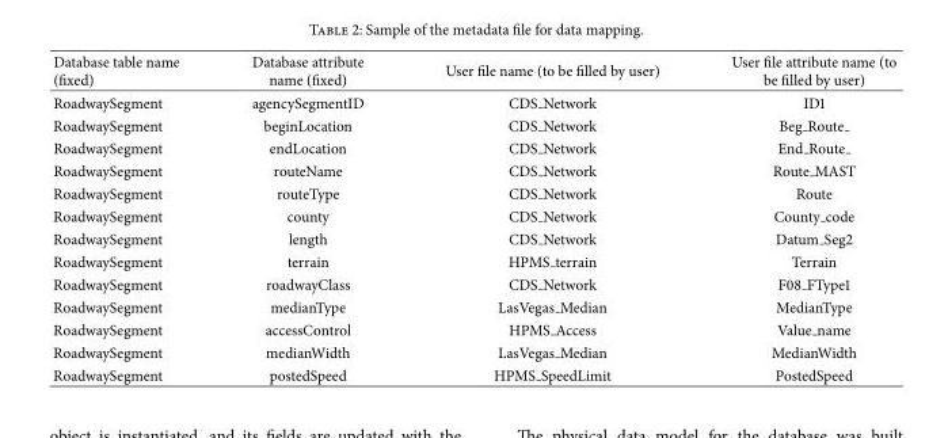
<table><thead><tr><td>Database table name (fixed)</td><td>Database attribute name (fixed)</td><td>User file name (to be filled by user)</td><td>User file attribute name (to be filled by user)</td></tr></thead><tbody><tr><td>RoadwaySegment</td><td>agencySegmentID</td><td>CDS Network</td><td>ID1</td></tr><tr><td>RoadwaySegment</td><td>beginLocation</td><td>CDS Network</td><td>Beg <sub>Route</sub></td></tr><tr><td>RoadwaySegment</td><td>endLocation</td><td>CDS Network</td><td>End <sub>Route</sub></td></tr><tr><td>RoadwaySegment</td><td>routeName</td><td>CDS Network</td><td>Route MAST</td></tr><tr><td>RoadwaySegment</td><td>routeType</td><td>CDS Network</td><td>Route</td></tr><tr><td>RoadwaySegment</td><td>county</td><td>CDS Network</td><td>County code</td></tr><tr><td>RoadwaySegment</td><td>length</td><td>CDS Network</td><td>Datum Seg2</td></tr><tr><td>RoadwaySegment</td><td>terrain</td><td>HPMS terrain</td><td>Terrain</td></tr><tr><td>RoadwaySegment</td><td>roadwayClass</td><td>CDS Network</td><td>F08 FType1</td></tr><tr><td>RoadwaySegment</td><td>medianType</td><td>LasVegas Median</td><td>MedianType</td></tr><tr><td>RoadwaySegment</td><td>accessControl</td><td>HPMS Access</td><td>Value name</td></tr><tr><td>RoadwaySegment</td><td>medianWidth</td><td>LasVegas Median</td><td>MedianWidth</td></tr><tr><td>RoadwaySegment</td><td>postedSpeed</td><td>HPMS SpeedLimit</td><td>PostedSpeed</td></tr></tbody></table>